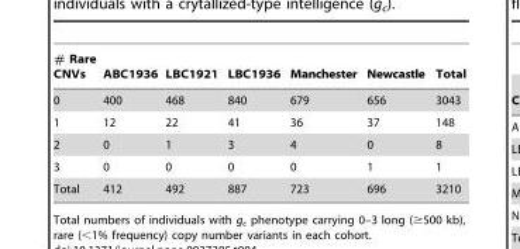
<table><thead><tr><td># Rare CNVs</td><td>ABC1936</td><td>LBC1921</td><td>LBC1936</td><td>Manchester</td><td>Newcastle</td><td>Total</td></tr></thead><tbody><tr><td>0</td><td>400</td><td>468</td><td>840</td><td>679</td><td>656</td><td>3043</td></tr><tr><td>1</td><td>12</td><td>22</td><td>41</td><td>36</td><td>37</td><td>148</td></tr><tr><td>2</td><td>0</td><td>1</td><td>3</td><td>4</td><td>0</td><td>8</td></tr><tr><td>3</td><td>0</td><td>0</td><td>0</td><td>0</td><td>1</td><td>1</td></tr><tr><td>Total</td><td>412</td><td>492</td><td>887</td><td>723</td><td>696</td><td>3210</td></tr></tbody></table>